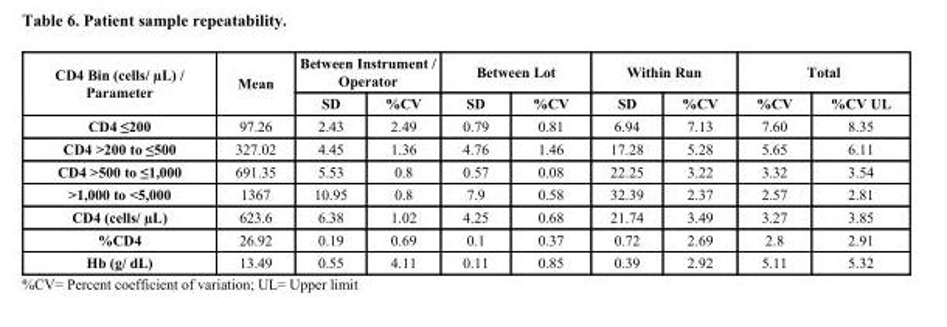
<table><thead><tr><td rowspan="2">CD4 Bin (cells/ µL) / Parameter</td><td rowspan="2">Mean</td><td colspan="2">Between Instrument / Operator</td><td colspan="2">Between Lot</td><td colspan="2">Within Run</td><td colspan="2">Total</td></tr><tr><td>SD</td><td>%CV</td><td>SD</td><td>%CV</td><td>SD</td><td>%CV</td><td>%CV</td><td>%CV UL</td></tr></thead><tbody><tr><td>CD4 ≤200</td><td>97.26</td><td>2.43</td><td>2.49</td><td>0.79</td><td>0.81</td><td>6.94</td><td>7.13</td><td>7.60</td><td>8.35</td></tr><tr><td>CD4 &gt;200 to ≤500</td><td>327.02</td><td>4.45</td><td>1.36</td><td>4.76</td><td>1.46</td><td>17.28</td><td>5.28</td><td>5.65</td><td>6.11</td></tr><tr><td>CD4 &gt;500 to ≤1,000</td><td>691.35</td><td>5.53</td><td>0.8</td><td>0.57</td><td>0.08</td><td>22.25</td><td>3.22</td><td>3.32</td><td>3.54</td></tr><tr><td>&gt;1,000 to &lt;5,000</td><td>1367</td><td>10.95</td><td>0.8</td><td>7.9</td><td>0.58</td><td>32.39</td><td>2.37</td><td>2.57</td><td>2.81</td></tr><tr><td>CD4 (cells/ µL)</td><td>623.6</td><td>6.38</td><td>1.02</td><td>4.25</td><td>0.68</td><td>21.74</td><td>3.49</td><td>3.27</td><td>3.85</td></tr><tr><td>%CD4</td><td>26.92</td><td>0.19</td><td>0.69</td><td>0.1</td><td>0.37</td><td>0.72</td><td>2.69</td><td>2.8</td><td>2.91</td></tr><tr><td>Hb (g/ dL)</td><td>13.49</td><td>0.55</td><td>4.11</td><td>0.11</td><td>0.85</td><td>0.39</td><td>2.92</td><td>5.11</td><td>5.32</td></tr></tbody></table>